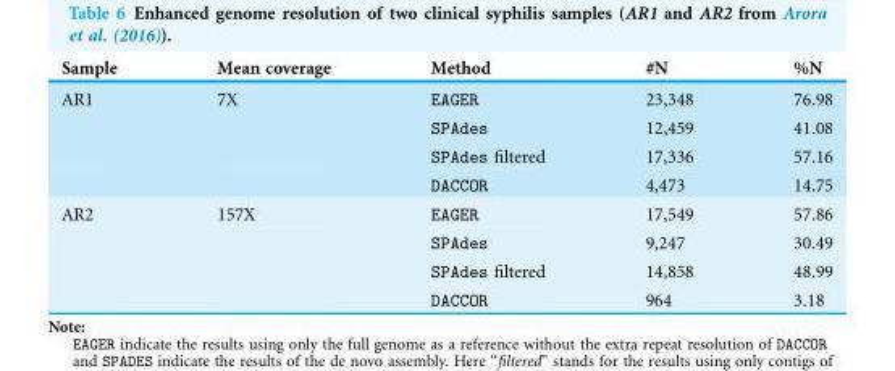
<table><thead><tr><td>Sample</td><td>Mean coverage</td><td>Method</td><td>#N</td><td>%N</td></tr></thead><tbody><tr><td rowspan="4">AR1</td><td>7X</td><td>EAGER</td><td>23,348</td><td>76.98</td></tr><tr><td></td><td>SPAdes</td><td>12,459</td><td>41.08</td></tr><tr><td></td><td>SPAdes filtered</td><td>17,336</td><td>57.16</td></tr><tr><td></td><td>DACCOR</td><td>4,473</td><td>14.75</td></tr><tr><td rowspan="4">AR2</td><td>157X</td><td>EAGER</td><td>17,549</td><td>57.86</td></tr><tr><td></td><td>SPAdes</td><td>9,247</td><td>30.49</td></tr><tr><td></td><td>SPAdes filtered</td><td>14,858</td><td>48.99</td></tr><tr><td></td><td>DACCOR</td><td>964</td><td>3.18</td></tr></tbody></table>